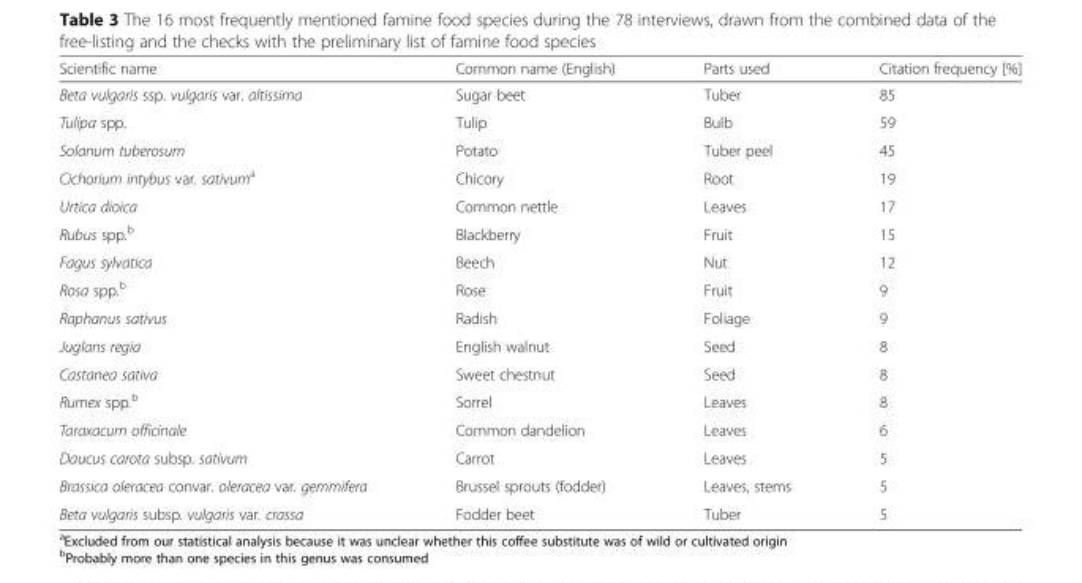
<table><thead><tr><td>Scientific name</td><td>Common name (English)</td><td>Parts used</td><td>Citation frequency [%]</td></tr></thead><tbody><tr><td>Beta vulgaris ssp. vulgaris var. altissima</td><td>Sugar beet</td><td>Tuber</td><td>85</td></tr><tr><td>Tulipa spp.</td><td>Tulip</td><td>Bulb</td><td>59</td></tr><tr><td>Solanum tuberosum</td><td>Potato</td><td>Tuber peel</td><td>45</td></tr><tr><td>Cichorium intybus var. sativum<sup>a</sup></td><td>Chicory</td><td>Root</td><td>19</td></tr><tr><td>Urtica dioica</td><td>Common nettle</td><td>Leaves</td><td>17</td></tr><tr><td>Rubus spp.<sup>b</sup></td><td>Blackberry</td><td>Fruit</td><td>15</td></tr><tr><td>Fagus sylvatica</td><td>Beech</td><td>Nut</td><td>12</td></tr><tr><td>Rosa spp.<sup>b</sup></td><td>Rose</td><td>Fruit</td><td>9</td></tr><tr><td>Raphanus sativus</td><td>Radish</td><td>Foliage</td><td>9</td></tr><tr><td>Juglans regia</td><td>English walnut</td><td>Seed</td><td>8</td></tr><tr><td>Castanea sativa</td><td>Sweet chestnut</td><td>Seed</td><td>8</td></tr><tr><td>Rumex spp.<sup>b</sup></td><td>Sorrel</td><td>Leaves</td><td>8</td></tr><tr><td>Taraxacum officinale</td><td>Common dandelion</td><td>Leaves</td><td>6</td></tr><tr><td>Daucus carota subsp. sativum</td><td>Carrot</td><td>Leaves</td><td>5</td></tr><tr><td>Brassica oleracea convar. oleracea var. gemmifera</td><td>Brussel sprouts (fodder)</td><td>Leaves, stems</td><td>5</td></tr><tr><td>Beta vulgaris subsp. vulgaris var. crassa</td><td>Fodder beet</td><td>Tuber</td><td>5</td></tr></tbody></table>